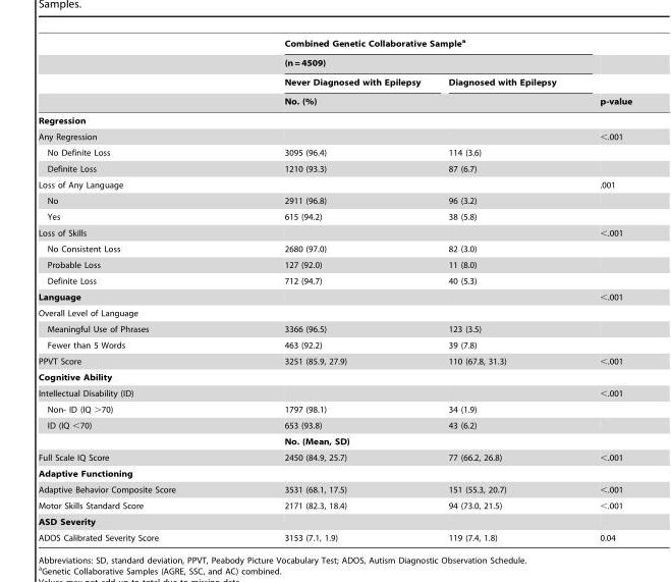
<table><thead><tr><td rowspan="4"></td><td rowspan="2" colspan="2">Combined Genetic Collaborative Sample<sup>a</sup> (n = 4509)</td><td rowspan="4">p-value</td></tr><tr></tr><tr><td>Never Diagnosed with Epilepsy</td><td>Diagnosed with Epilepsy</td></tr><tr><td colspan="2">No. (%)</td></tr></thead><tbody><tr><td colspan="4">Regression</td></tr><tr><td>Any Regression</td><td></td><td></td><td>&lt;.001</td></tr><tr><td>No Definite Loss</td><td>3095 (96.4)</td><td>114 (3.6)</td><td></td></tr><tr><td>Definite Loss</td><td>1210 (93.3)</td><td>87 (6.7)</td><td></td></tr><tr><td>Loss of Any Language</td><td></td><td></td><td>.001</td></tr><tr><td>No</td><td>2911 (96.8)</td><td>96 (3.2)</td><td></td></tr><tr><td>Yes</td><td>615 (94.2)</td><td>38 (5.8)</td><td></td></tr><tr><td>Loss of Skills</td><td></td><td></td><td>&lt;.001</td></tr><tr><td>No Consistent Loss</td><td>2680 (97.0)</td><td>82 (3.0)</td><td></td></tr><tr><td>Probable Loss</td><td>127 (92.0)</td><td>11 (8.0)</td><td></td></tr><tr><td>Definite Loss</td><td>712 (94.7)</td><td>40 (5.3)</td><td></td></tr><tr><td>Language</td><td></td><td></td><td>&lt;.001</td></tr><tr><td colspan="4">Overall Level of Language</td></tr><tr><td>Meaningful Use of Phrases</td><td>3366 (96.5)</td><td>123 (3.5)</td><td></td></tr><tr><td>Fewer than 5 Words</td><td>463 (92.2)</td><td>39 (7.8)</td><td></td></tr><tr><td>PPVT Score</td><td>3251 (85.9, 27.9)</td><td>110 (67.8, 31.3)</td><td>&lt;.001</td></tr><tr><td colspan="4">Cognitive Ability</td></tr><tr><td>Intellectual Disability (ID)</td><td></td><td></td><td>&lt;.001</td></tr><tr><td>Non- ID (IQ &gt;70)</td><td>1797 (98.1)</td><td>34 (1.9)</td><td></td></tr><tr><td rowspan="2">ID (IQ &lt;70)</td><td>653 (93.8)</td><td>43 (6.2)</td><td></td></tr><tr><td colspan="2">No. (Mean, SD)</td><td></td></tr><tr><td>Full Scale IQ Score</td><td>2450 (84.9, 25.7)</td><td>77 (66.2, 26.8)</td><td>&lt;.001</td></tr><tr><td colspan="4">Adaptive Functioning</td></tr><tr><td>Adaptive Behavior Composite Score</td><td>3531 (68.1, 17.5)</td><td>151 (55.3, 20.7)</td><td>&lt;.001</td></tr><tr><td>Motor Skills Standard Score</td><td>2171 (82.3, 18.4)</td><td>94 (73.0, 21.5)</td><td>&lt;.001</td></tr><tr><td colspan="4">ASD Severity</td></tr><tr><td>ADOS Calibrated Severity Score</td><td>3153 (7.1, 1.9)</td><td>119 (7.4, 1.8)</td><td>0.04</td></tr></tbody></table>